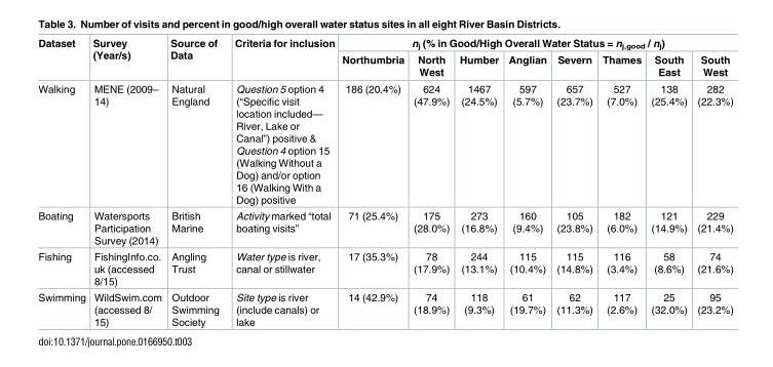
<table><thead><tr><td rowspan="2">Dataset</td><td rowspan="2">Survey (Year/s)</td><td rowspan="2">Source of Data</td><td rowspan="2">Criteria for inclusion</td><td colspan="8">n<sub>j</sub> (% in Good/High Overall Water Status = n<sub>j,good</sub> / n<sub>j</sub>)</td></tr><tr><td>Northumbria</td><td>North West</td><td>Humber</td><td>Anglian</td><td>Severn</td><td>Thames</td><td>South East</td><td>South West</td></tr></thead><tbody><tr><td>Walking</td><td>MENE (2009– 14)</td><td>Natural England</td><td>Question 5 option 4 (“Specific visit location included— River, Lake or Canal”) positive &amp; Question 4 option 15 (Walking Without a Dog) and/or option 16 (Walking With a Dog) positive</td><td>186 (20.4%)</td><td>624 (47.9%)</td><td>1467 (24.5%)</td><td>597 (5.7%)</td><td>657 (23.7%)</td><td>527 (7.0%)</td><td>138 (25.4%)</td><td>282 (22.3%)</td></tr><tr><td>Boating</td><td>Watersports Participation Survey (2014)</td><td>British Marine</td><td>Activity marked “total boating visits”</td><td>71 (25.4%)</td><td>175 (28.0%)</td><td>273 (16.8%)</td><td>160 (9.4%)</td><td>105 (23.8%)</td><td>182 (6.0%)</td><td>121 (14.9%)</td><td>229 (21.4%)</td></tr><tr><td>Fishing</td><td>FishingInfo.co. uk (accessed 8/15)</td><td>Angling Trust</td><td>Water type is river, canal or stillwater</td><td>17 (35.3%)</td><td>78 (17.9%)</td><td>244 (13.1%)</td><td>115 (10.4%)</td><td>115 (14.8%)</td><td>116 (3.4%)</td><td>58 (8.6%)</td><td>74 (21.6%)</td></tr><tr><td>Swimming</td><td>WildSwim.com (accessed 8/ 15)</td><td>Outdoor Swimming Society</td><td>Site type is river (include canals) or lake</td><td>14 (42.9%)</td><td>74 (18.9%)</td><td>118 (9.3%)</td><td>61 (19.7%)</td><td>62 (11.3%)</td><td>117 (2.6%)</td><td>25 (32.0%)</td><td>95 (23.2%)</td></tr></tbody></table>